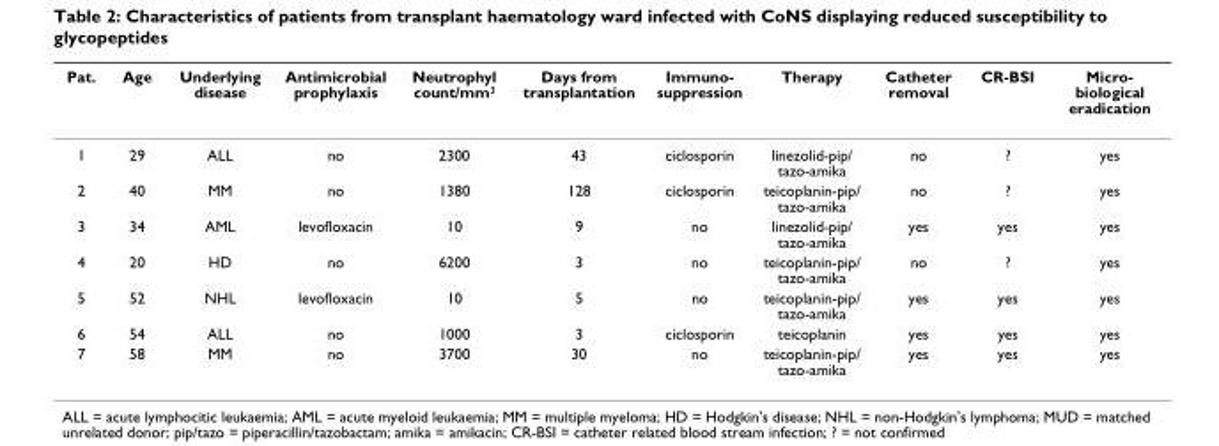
<table><thead><tr><td>Pat.</td><td>Age</td><td>Underlying disease</td><td>Antimicrobial prophylaxis</td><td>Neutrophyl count/mm<sup>3</sup></td><td>Days from transplantation</td><td>Immuno- suppression</td><td>Therapy</td><td>Catheter removal</td><td>CR-BSI</td><td>Micro- biological eradication</td></tr></thead><tbody><tr><td>1</td><td>29</td><td>ALL</td><td>no</td><td>2300</td><td>43</td><td>ciclosporin</td><td>linezolid-pip/ tazo-amika</td><td>no</td><td>?</td><td>yes</td></tr><tr><td>2</td><td>40</td><td>MM</td><td>no</td><td>1380</td><td>128</td><td>ciclosporin</td><td>teicoplanin-pip/ tazo-amika</td><td>no</td><td>?</td><td>yes</td></tr><tr><td>3</td><td>34</td><td>AML</td><td>levofloxacin</td><td>10</td><td>9</td><td>no</td><td>linezolid-pip/ tazo-amika</td><td>yes</td><td>yes</td><td>yes</td></tr><tr><td>4</td><td>20</td><td>HD</td><td>no</td><td>6200</td><td>3</td><td>no</td><td>teicoplanin-pip/ tazo-amika</td><td>no</td><td>?</td><td>yes</td></tr><tr><td>5</td><td>52</td><td>NHL</td><td>levofloxacin</td><td>10</td><td>5</td><td>no</td><td>teicoplanin-pip/ tazo-amika</td><td>yes</td><td>yes</td><td>yes</td></tr><tr><td>6</td><td>54</td><td>ALL</td><td>no</td><td>1000</td><td>3</td><td>ciclosporin</td><td>teicoplanin</td><td>yes</td><td>yes</td><td>yes</td></tr><tr><td>7</td><td>58</td><td>MM</td><td>no</td><td>3700</td><td>30</td><td>no</td><td>teicoplanin-pip/ tazo-amika</td><td>yes</td><td>yes</td><td>yes</td></tr></tbody></table>